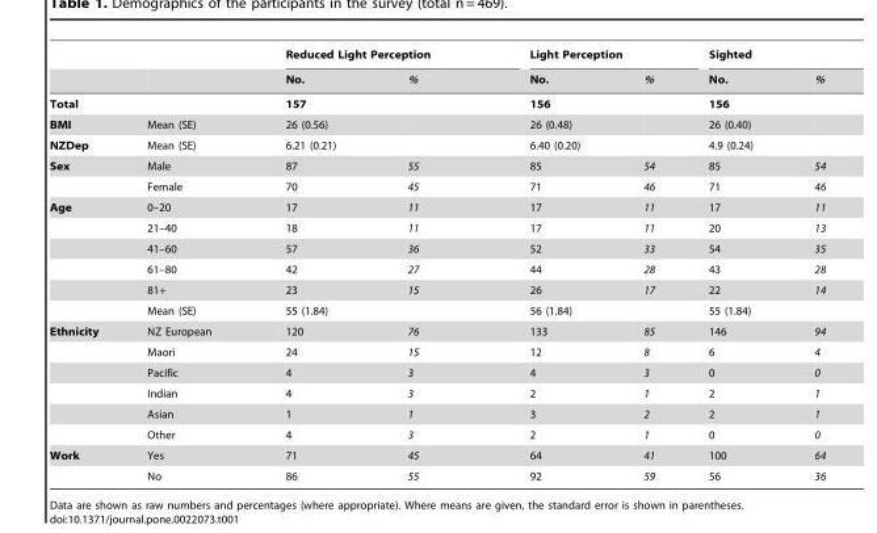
<table><thead><tr><td rowspan="2"></td><td rowspan="2"></td><td colspan="2">Reduced Light Perception</td><td colspan="2">Light Perception</td><td colspan="2">Sighted</td></tr><tr><td>No.</td><td>%</td><td>No.</td><td>%</td><td>No.</td><td>%</td></tr></thead><tbody><tr><td>Total</td><td></td><td>157</td><td></td><td>156</td><td></td><td>156</td><td></td></tr><tr><td>BMI</td><td>Mean (SE)</td><td>26 (0.56)</td><td></td><td>26 (0.48)</td><td></td><td>26 (0.40)</td><td></td></tr><tr><td>NZDep</td><td>Mean (SE)</td><td>6.21 (0.21)</td><td></td><td>6.40 (0.20)</td><td></td><td>4.9 (0.24)</td><td></td></tr><tr><td rowspan="2">Sex</td><td>Male</td><td>87</td><td>55</td><td>85</td><td>54</td><td>85</td><td>54</td></tr><tr><td>Female</td><td>70</td><td>45</td><td>71</td><td>46</td><td>71</td><td>46</td></tr><tr><td rowspan="6">Age</td><td>0–20</td><td>17</td><td>11</td><td>17</td><td>11</td><td>17</td><td>11</td></tr><tr><td>21–40</td><td>18</td><td>11</td><td>17</td><td>11</td><td>20</td><td>13</td></tr><tr><td>41–60</td><td>57</td><td>36</td><td>52</td><td>33</td><td>54</td><td>35</td></tr><tr><td>61–80</td><td>42</td><td>27</td><td>44</td><td>28</td><td>43</td><td>28</td></tr><tr><td>81+</td><td>23</td><td>15</td><td>26</td><td>17</td><td>22</td><td>14</td></tr><tr><td>Mean (SE)</td><td>55 (1.84)</td><td></td><td>56 (1.84)</td><td></td><td>55 (1.84)</td><td></td></tr><tr><td rowspan="6">Ethnicity</td><td>NZ European</td><td>120</td><td>76</td><td>133</td><td>85</td><td>146</td><td>94</td></tr><tr><td>Maori</td><td>24</td><td>15</td><td>12</td><td>8</td><td>6</td><td>4</td></tr><tr><td>Pacific</td><td>4</td><td>3</td><td>4</td><td>3</td><td>0</td><td>0</td></tr><tr><td>Indian</td><td>4</td><td>3</td><td>2</td><td>1</td><td>2</td><td>1</td></tr><tr><td>Asian</td><td>1</td><td>1</td><td>3</td><td>2</td><td>2</td><td>1</td></tr><tr><td>Other</td><td>4</td><td>3</td><td>2</td><td>1</td><td>0</td><td>0</td></tr><tr><td rowspan="2">Work</td><td>Yes</td><td>71</td><td>45</td><td>64</td><td>41</td><td>100</td><td>64</td></tr><tr><td>No</td><td>86</td><td>55</td><td>92</td><td>59</td><td>56</td><td>36</td></tr></tbody></table>